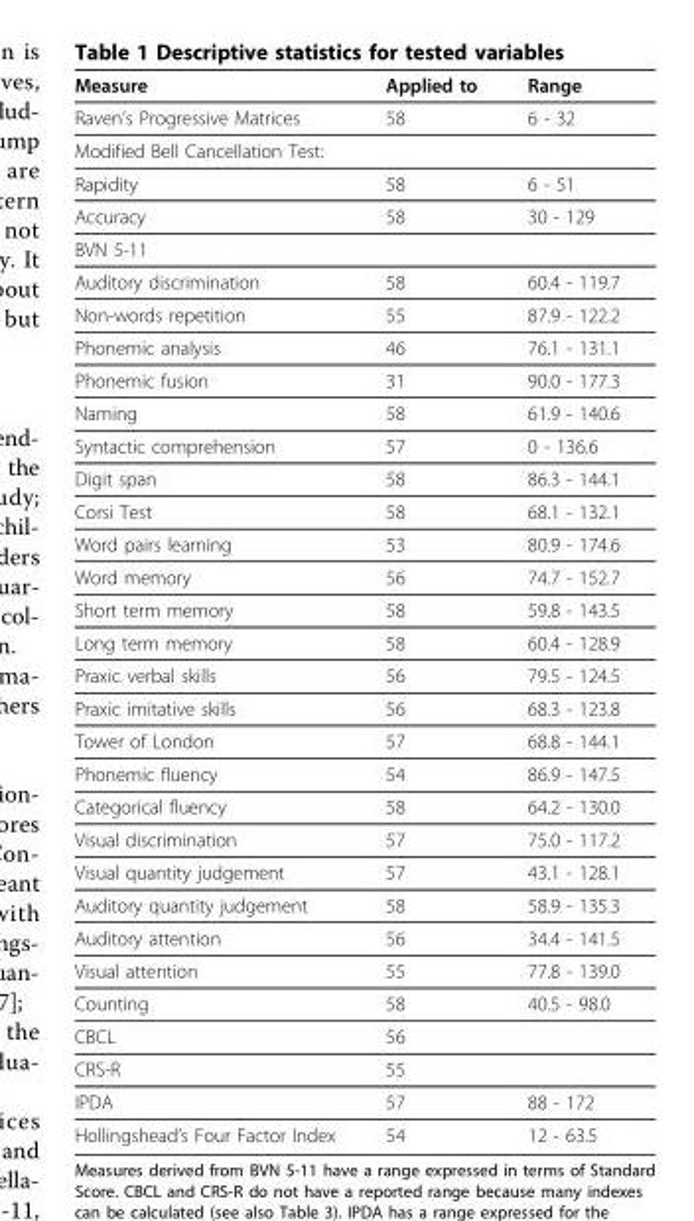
<table><thead><tr><td>Measure</td><td>Applied to</td><td>Range</td></tr></thead><tbody><tr><td>Raven’s Progressive Matrices</td><td>58</td><td>6 - 32</td></tr><tr><td colspan="3">Modified Bell Cancellation Test:</td></tr><tr><td>Rapidity</td><td>58</td><td>6 - 51</td></tr><tr><td>Accuracy</td><td>58</td><td>30 - 129</td></tr><tr><td colspan="3">BVN 5-11</td></tr><tr><td>Auditory discrimination</td><td>58</td><td>60.4 - 119.7</td></tr><tr><td>Non-words repetition</td><td>55</td><td>87.9 - 122.2</td></tr><tr><td>Phonemic analysis</td><td>46</td><td>76.1 - 131.1</td></tr><tr><td>Phonemic fusion</td><td>31</td><td>90.0 - 177.3</td></tr><tr><td>Naming</td><td>58</td><td>61.9 - 140.6</td></tr><tr><td>Syntactic comprehension</td><td>57</td><td>0 - 136.6</td></tr><tr><td>Digit span</td><td>58</td><td>86.3 - 144.1</td></tr><tr><td>Corsi Test</td><td>58</td><td>68.1 - 132.1</td></tr><tr><td>Word pairs learning</td><td>53</td><td>80.9 - 174.6</td></tr><tr><td>Word memory</td><td>56</td><td>74.7 - 152.7</td></tr><tr><td>Short term memory</td><td>58</td><td>59.8 - 143.5</td></tr><tr><td>Long term memory</td><td>58</td><td>60.4 - 128.9</td></tr><tr><td>Praxic verbal skills</td><td>56</td><td>79.5 - 124.5</td></tr><tr><td>Praxic imitative skills</td><td>56</td><td>68.3 - 123.8</td></tr><tr><td>Tower of London</td><td>57</td><td>68.8 - 144.1</td></tr><tr><td>Phonemic fluency</td><td>54</td><td>86.9 - 147.5</td></tr><tr><td>Categorical fluency</td><td>58</td><td>64.2 - 130.0</td></tr><tr><td>Visual discrimination</td><td>57</td><td>75.0 - 117.2</td></tr><tr><td>Visual quantity judgement</td><td>57</td><td>43.1 - 128.1</td></tr><tr><td>Auditory quantity judgement</td><td>58</td><td>58.9 - 135.3</td></tr><tr><td>Auditory attention</td><td>56</td><td>34.4 - 141.5</td></tr><tr><td>Visual attention</td><td>55</td><td>77.8 - 139.0</td></tr><tr><td>Counting</td><td>58</td><td>40.5 - 98.0</td></tr><tr><td>CBCL</td><td>56</td><td></td></tr><tr><td>CRS-R</td><td>55</td><td></td></tr><tr><td>IPDA</td><td>57</td><td>88 - 172</td></tr><tr><td>Hollingshead’s Four Factor Index</td><td>54</td><td>12 - 63.5</td></tr></tbody></table>